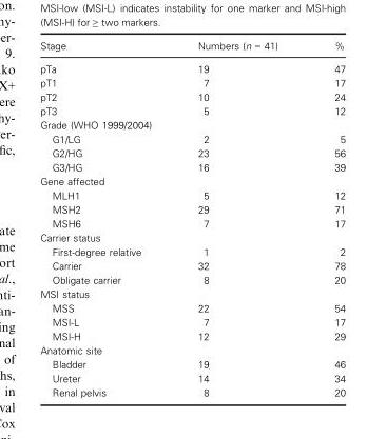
<table><thead><tr><td>Stage</td><td>Numbers (n = 41)</td><td>%</td></tr></thead><tbody><tr><td>pTa</td><td>19</td><td>47</td></tr><tr><td>pT1</td><td>7</td><td>17</td></tr><tr><td>pT2</td><td>10</td><td>24</td></tr><tr><td>pT3</td><td>5</td><td>12</td></tr><tr><td colspan="3">Grade (WHO 1999/2004)</td></tr><tr><td>G1/LG</td><td>2</td><td>5</td></tr><tr><td>G2/HG</td><td>23</td><td>56</td></tr><tr><td>G3/HG</td><td>16</td><td>39</td></tr><tr><td colspan="3">Gene affected</td></tr><tr><td>MLH1</td><td>5</td><td>12</td></tr><tr><td>MSH2</td><td>29</td><td>71</td></tr><tr><td>MSH6</td><td>7</td><td>17</td></tr><tr><td colspan="3">Carrier status</td></tr><tr><td>First-degree relative</td><td>1</td><td>2</td></tr><tr><td>Carrier</td><td>32</td><td>78</td></tr><tr><td>Obligate carrier</td><td>8</td><td>20</td></tr><tr><td colspan="3">MSI status</td></tr><tr><td>MSS</td><td>22</td><td>54</td></tr><tr><td>MSI-L</td><td>7</td><td>17</td></tr><tr><td>MSI-H</td><td>12</td><td>29</td></tr><tr><td colspan="3">Anatomic site</td></tr><tr><td>Bladder</td><td>19</td><td>46</td></tr><tr><td>Ureter</td><td>14</td><td>34</td></tr><tr><td>Renal pelvis</td><td>8</td><td>20</td></tr></tbody></table>